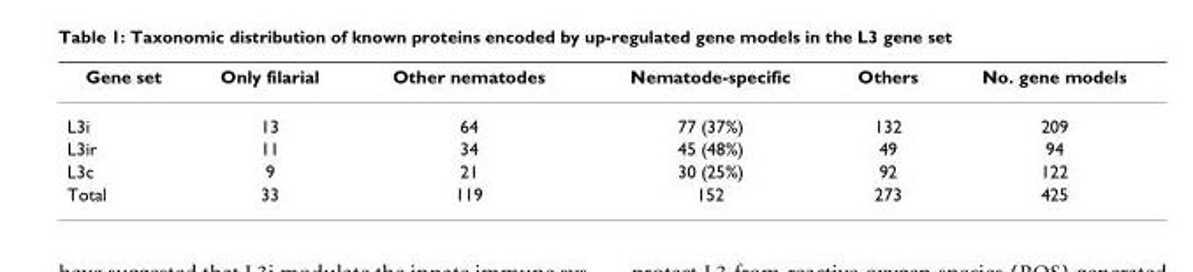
<table><thead><tr><td>Gene set</td><td>Only filarial</td><td>Other nematodes</td><td>Nematode-specific</td><td>Others</td><td>No. gene models</td></tr></thead><tbody><tr><td>L3i</td><td>13</td><td>64</td><td>77 (37%)</td><td>132</td><td>209</td></tr><tr><td>L3ir</td><td>11</td><td>34</td><td>45 (48%)</td><td>49</td><td>94</td></tr><tr><td>L3c</td><td>9</td><td>21</td><td>30 (25%)</td><td>92</td><td>122</td></tr><tr><td>Total</td><td>33</td><td>119</td><td>152</td><td>273</td><td>425</td></tr></tbody></table>